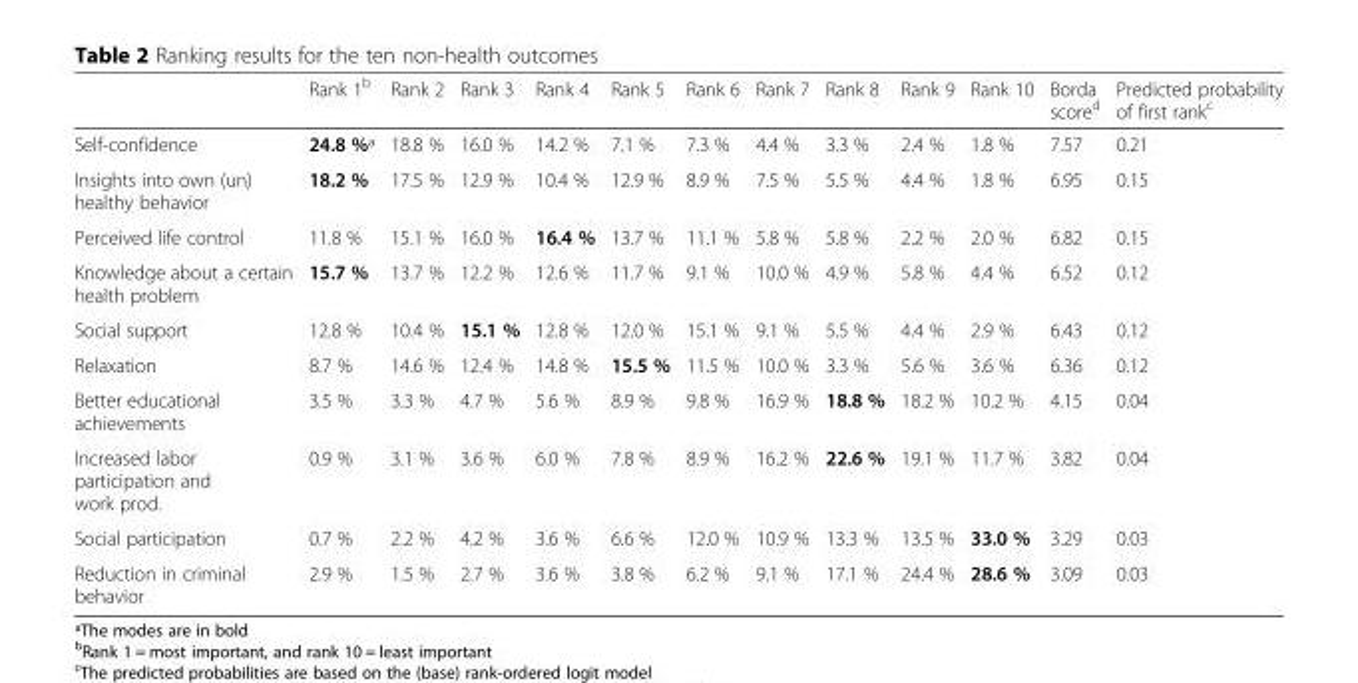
<table><thead><tr><td></td><td>Rank 1<sup>b</sup></td><td>Rank 2</td><td>Rank 3</td><td>Rank 4</td><td>Rank 5</td><td>Rank 6</td><td>Rank 7</td><td>Rank 8</td><td>Rank 9</td><td>Rank 10</td><td>Borda score<sup>d</sup></td><td>Predicted probability of first rank<sup>c</sup></td></tr></thead><tbody><tr><td>Self-confidence</td><td>24.8 %ª</td><td>18.8 %</td><td>16.0 %</td><td>14.2 %</td><td>7.1 %</td><td>7.3 %</td><td>4.4 %</td><td>3.3 %</td><td>2.4 %</td><td>1.8 %</td><td>7.57</td><td>0.21</td></tr><tr><td>Insights into own (un) healthy behavior</td><td>18.2 %</td><td>17.5 %</td><td>12.9 %</td><td>10.4 %</td><td>12.9 %</td><td>8.9 %</td><td>7.5 %</td><td>5.5 %</td><td>4.4 %</td><td>1.8 %</td><td>6.95</td><td>0.15</td></tr><tr><td>Perceived life control</td><td>11.8 %</td><td>15.1 %</td><td>16.0 %</td><td>16.4 %</td><td>13.7 %</td><td>11.1 %</td><td>5.8 %</td><td>5.8 %</td><td>2.2 %</td><td>2.0 %</td><td>6.82</td><td>0.15</td></tr><tr><td>Knowledge about a certain health problem</td><td>15.7 %</td><td>13.7 %</td><td>12.2 %</td><td>12.6 %</td><td>11.7 %</td><td>9.1 %</td><td>10.0 %</td><td>4.9 %</td><td>5.8 %</td><td>4.4 %</td><td>6.52</td><td>0.12</td></tr><tr><td>Social support</td><td>12.8 %</td><td>10.4 %</td><td>15.1 %</td><td>12.8 %</td><td>12.0 %</td><td>15.1 %</td><td>9.1 %</td><td>5.5 %</td><td>4.4 %</td><td>2.9 %</td><td>6.43</td><td>0.12</td></tr><tr><td>Relaxation</td><td>8.7 %</td><td>14.6 %</td><td>12.4 %</td><td>14.8 %</td><td>15.5 %</td><td>11.5 %</td><td>10.0 %</td><td>3.3 %</td><td>5.6 %</td><td>3.6 %</td><td>6.36</td><td>0.12</td></tr><tr><td>Better educational achievements</td><td>3.5 %</td><td>3.3 %</td><td>4.7 %</td><td>5.6 %</td><td>8.9 %</td><td>9.8 %</td><td>16.9 %</td><td>18.8 %</td><td>18.2 %</td><td>10.2 %</td><td>4.15</td><td>0.04</td></tr><tr><td>Increased labor participation and work prod.</td><td>0.9 %</td><td>3.1 %</td><td>3.6 %</td><td>6.0 %</td><td>7.8 %</td><td>8.9 %</td><td>16.2 %</td><td>22.6 %</td><td>19.1 %</td><td>11.7 %</td><td>3.82</td><td>0.04</td></tr><tr><td>Social participation</td><td>0.7 %</td><td>2.2 %</td><td>4.2 %</td><td>3.6 %</td><td>6.6 %</td><td>12.0 %</td><td>10.9 %</td><td>13.3 %</td><td>13.5 %</td><td>33.0 %</td><td>3.29</td><td>0.03</td></tr><tr><td>Reduction in criminal behavior</td><td>2.9 %</td><td>1.5 %</td><td>2.7 %</td><td>3.6 %</td><td>3.8 %</td><td>6.2 %</td><td>9.1 %</td><td>17.1 %</td><td>24.4 %</td><td>28.6 %</td><td>3.09</td><td>0.03</td></tr></tbody></table>